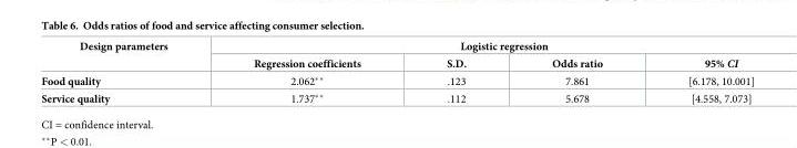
<table><thead><tr><td rowspan="2">Design parameters</td><td colspan="4">Logistic regression</td></tr><tr><td>Regression coefficients</td><td>S.D.</td><td>Odds ratio</td><td>95% CI</td></tr></thead><tbody><tr><td>Food quality</td><td>2.062**</td><td>.123</td><td>7.861</td><td>[6.178, 10.001]</td></tr><tr><td>Service quality</td><td>1.737**</td><td>.112</td><td>5.678</td><td>[4.558, 7.073]</td></tr></tbody></table>